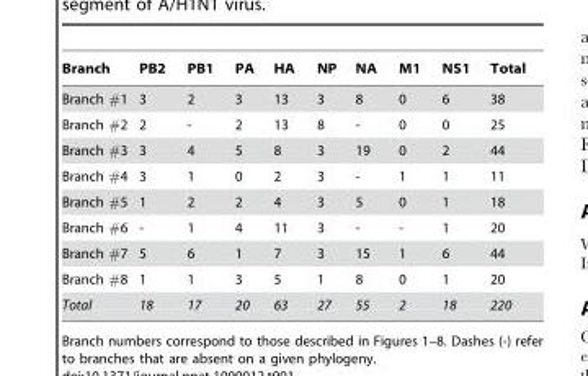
<table><thead><tr><td>Branch</td><td>PB2</td><td>PB1</td><td>PA</td><td>HA</td><td>NP</td><td>NA</td><td>M1</td><td>NS1</td><td>Total</td></tr></thead><tbody><tr><td>Branch #1</td><td>3</td><td>2</td><td>3</td><td>13</td><td>3</td><td>8</td><td>0</td><td>6</td><td>38</td></tr><tr><td>Branch #2</td><td>2</td><td>-</td><td>2</td><td>13</td><td>8</td><td>-</td><td>0</td><td>0</td><td>25</td></tr><tr><td>Branch #3</td><td>3</td><td>4</td><td>5</td><td>8</td><td>3</td><td>19</td><td>0</td><td>2</td><td>44</td></tr><tr><td>Branch #4</td><td>3</td><td>1</td><td>0</td><td>2</td><td>3</td><td>-</td><td>1</td><td>1</td><td>11</td></tr><tr><td>Branch #5</td><td>1</td><td>2</td><td>2</td><td>4</td><td>3</td><td>5</td><td>0</td><td>1</td><td>18</td></tr><tr><td>Branch #6</td><td>-</td><td>1</td><td>4</td><td>11</td><td>3</td><td>-</td><td>-</td><td>1</td><td>20</td></tr><tr><td>Branch #7</td><td>5</td><td>6</td><td>1</td><td>7</td><td>3</td><td>15</td><td>1</td><td>6</td><td>44</td></tr><tr><td>Branch #8</td><td>1</td><td>1</td><td>3</td><td>5</td><td>1</td><td>8</td><td>0</td><td>1</td><td>20</td></tr><tr><td>Total</td><td>18</td><td>17</td><td>20</td><td>63</td><td>27</td><td>55</td><td>2</td><td>18</td><td>220</td></tr></tbody></table>